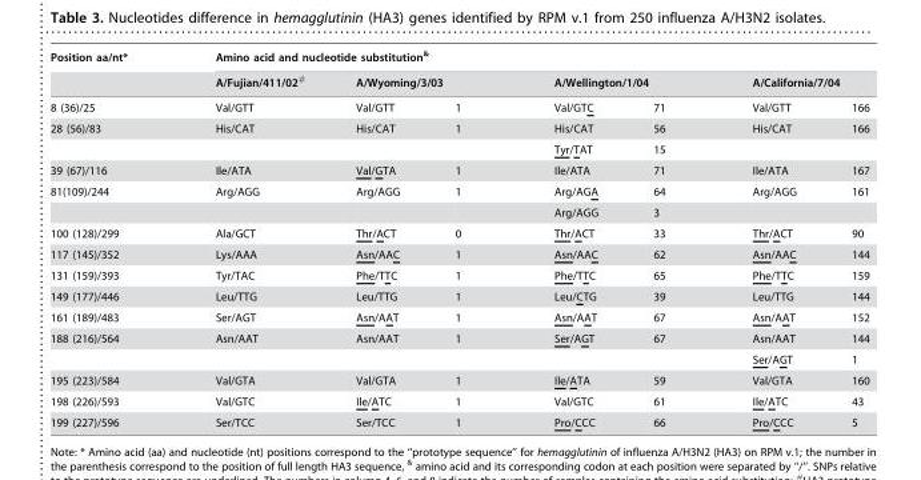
<table><thead><tr><td rowspan="3">Position aa/nt* 8 (36)/25</td><td colspan="7">Amino acid and nucleotide substitution<sup>&amp;</sup></td></tr><tr><td rowspan="2">A/Fujian/411/02<sup>#</sup> Val/GTT</td><td colspan="2">A/Wyoming/3/03</td><td colspan="2">A/Wellington/1/04</td><td colspan="2">A/California/7/04</td></tr><tr><td>Val/GTT</td><td>1</td><td>Val/GTC</td><td>71</td><td>Val/GTT</td><td>166</td></tr></thead><tbody><tr><td rowspan="2">28 (56)/83</td><td>His/CAT</td><td>His/CAT</td><td>1</td><td>His/CAT</td><td>56</td><td>His/CAT</td><td>166</td></tr><tr><td></td><td></td><td></td><td>Tyr/TAT</td><td>15</td><td></td><td></td></tr><tr><td>39 (67)/116</td><td>Ile/ATA</td><td>Val/GTA</td><td>1</td><td>Ile/ATA</td><td>71</td><td>Ile/ATA</td><td>167</td></tr><tr><td rowspan="2">81(109)/244</td><td>Arg/AGG</td><td>Arg/AGG</td><td>1</td><td>Arg/AGA</td><td>64</td><td>Arg/AGG</td><td>161</td></tr><tr><td></td><td></td><td></td><td>Arg/AGG</td><td>3</td><td></td><td></td></tr><tr><td>100 (128)/299</td><td>Ala/GCT</td><td>Thr/ACT</td><td>0</td><td>Thr/ACT</td><td>33</td><td>Thr/ACT</td><td>90</td></tr><tr><td>117 (145)/352</td><td>Lys/AAA</td><td>Asn/AAC</td><td>1</td><td>Asn/AAC</td><td>62</td><td>Asn/AAC</td><td>144</td></tr><tr><td>131 (159)/393</td><td>Tyr/TAC</td><td>Phe/TTC</td><td>1</td><td>Phe/TTC</td><td>65</td><td>Phe/TTC</td><td>159</td></tr><tr><td>149 (177)/446</td><td>Leu/TTG</td><td>Leu/TTG</td><td>1</td><td>Leu/CTG</td><td>39</td><td>Leu/TTG</td><td>144</td></tr><tr><td>161 (189)/483</td><td>Ser/AGT</td><td>Asn/AAT</td><td>1</td><td>Asn/AAT</td><td>67</td><td>Asn/AAT</td><td>152</td></tr><tr><td rowspan="2">188 (216)/564</td><td>Asn/AAT</td><td>Asn/AAT</td><td>1</td><td>Ser/AGT</td><td>67</td><td>Asn/AAT</td><td>144</td></tr><tr><td></td><td></td><td></td><td></td><td></td><td>Ser/AGT</td><td>1</td></tr><tr><td>195 (223)/584</td><td>Val/GTA</td><td>Val/GTA</td><td>1</td><td>Ile/ATA</td><td>59</td><td>Val/GTA</td><td>160</td></tr><tr><td>198 (226)/593</td><td>Val/GTC</td><td>Ile/ATC</td><td>1</td><td>Val/GTC</td><td>61</td><td>Ile/ATC</td><td>43</td></tr><tr><td>199 (227)/596</td><td>Ser/TCC</td><td>Ser/TCC</td><td>1</td><td>Pro/CCC</td><td>66</td><td>Pro/CCC</td><td>5</td></tr></tbody></table>